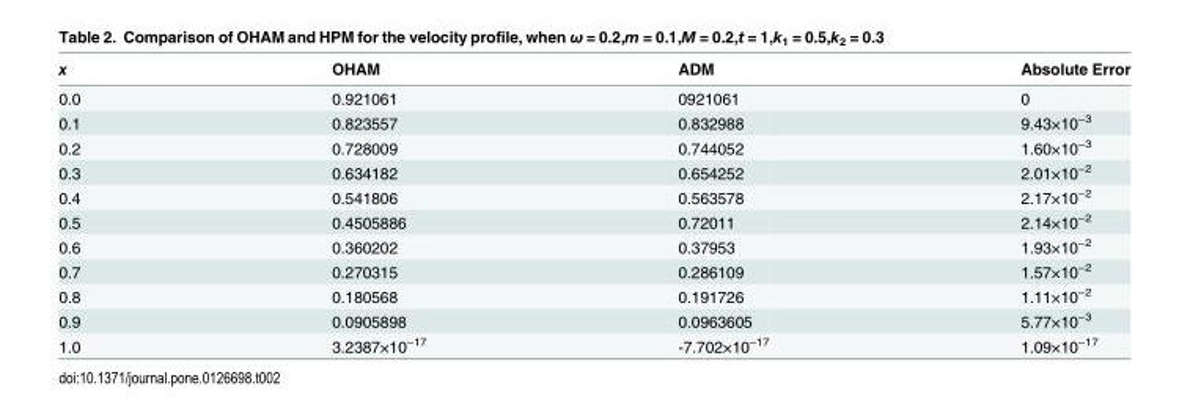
<table><thead><tr><td>x</td><td>OHAM</td><td>ADM</td><td>Absolute Error</td></tr></thead><tbody><tr><td>0.0</td><td>0.921061</td><td>0921061</td><td>0</td></tr><tr><td>0.1</td><td>0.823557</td><td>0.832988</td><td>9.43×10<sup>−3</sup></td></tr><tr><td>0.2</td><td>0.728009</td><td>0.744052</td><td>1.60×10<sup>−3</sup></td></tr><tr><td>0.3</td><td>0.634182</td><td>0.654252</td><td>2.01×10<sup>−2</sup></td></tr><tr><td>0.4</td><td>0.541806</td><td>0.563578</td><td>2.17×10<sup>−2</sup></td></tr><tr><td>0.5</td><td>0.4505886</td><td>0.72011</td><td>2.14×10<sup>−2</sup></td></tr><tr><td>0.6</td><td>0.360202</td><td>0.37953</td><td>1.93×10<sup>−2</sup></td></tr><tr><td>0.7</td><td>0.270315</td><td>0.286109</td><td>1.57×10<sup>−2</sup></td></tr><tr><td>0.8</td><td>0.180568</td><td>0.191726</td><td>1.11×10<sup>−2</sup></td></tr><tr><td>0.9</td><td>0.0905898</td><td>0.0963605</td><td>5.77×10<sup>−3</sup></td></tr><tr><td>1.0</td><td>3.2387×10<sup>−17</sup></td><td>-7.702×10<sup>−17</sup></td><td>1.09×10<sup>−17</sup></td></tr></tbody></table>